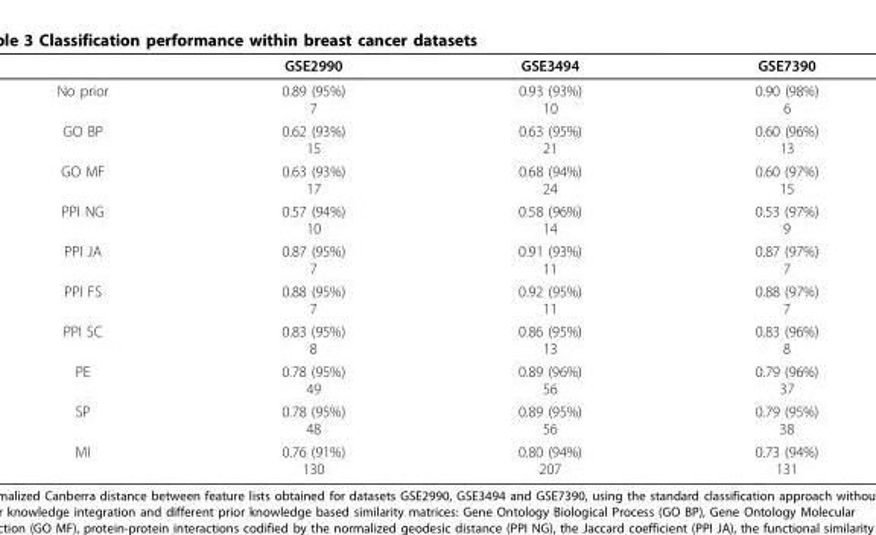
<table><thead><tr><td></td><td>GSE2990</td><td>GSE3494</td><td>GSE7390</td></tr></thead><tbody><tr><td>No prior</td><td>0.89 (95%) 7</td><td>0.93 (93%) 10</td><td>0.90 (98%) 6</td></tr><tr><td>GO BP</td><td>0.62 (93%) 15</td><td>0.63 (95%) 21</td><td>0.60 (96%) 13</td></tr><tr><td>GO MF</td><td>0.63 (93%) 17</td><td>0.68 (94%) 24</td><td>0.60 (97%) 15</td></tr><tr><td>PPI NG</td><td>0.57 (94%) 10</td><td>0.58 (96%) 14</td><td>0.53 (97%) 9</td></tr><tr><td>PPI JA</td><td>0.87 (95%) 7</td><td>0.91 (93%) 11</td><td>0.87 (97%) 7</td></tr><tr><td>PPI FS</td><td>0.88 (95%) 7</td><td>0.92 (95%) 11</td><td>0.88 (97%) 7</td></tr><tr><td>PPI SC</td><td>0.83 (95%) 8</td><td>0.86 (95%) 13</td><td>0.83 (96%) 8</td></tr><tr><td>PE</td><td>0.78 (95%) 49</td><td>0.89 (96%) 56</td><td>0.79 (96%) 37</td></tr><tr><td>SP</td><td>0.78 (95%) 48</td><td>0.89 (95%) 56</td><td>0.79 (95%) 38</td></tr><tr><td>MI</td><td>0.76 (91%) 130</td><td>0.80 (94%) 207</td><td>0.73 (94%) 131</td></tr></tbody></table>